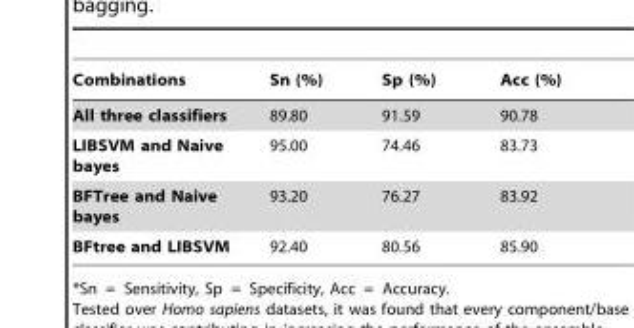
<table><thead><tr><td>Combinations</td><td>Sn (%)</td><td>Sp (%)</td><td>Acc (%)</td></tr></thead><tbody><tr><td>All three classifiers</td><td>89.80</td><td>91.59</td><td>90.78</td></tr><tr><td>LIBSVM and Naive bayes</td><td>95.00</td><td>74.46</td><td>83.73</td></tr><tr><td>BFTree and Naive bayes</td><td>93.20</td><td>76.27</td><td>83.92</td></tr><tr><td>BFtree and LIBSVM</td><td>92.40</td><td>80.56</td><td>85.90</td></tr></tbody></table>